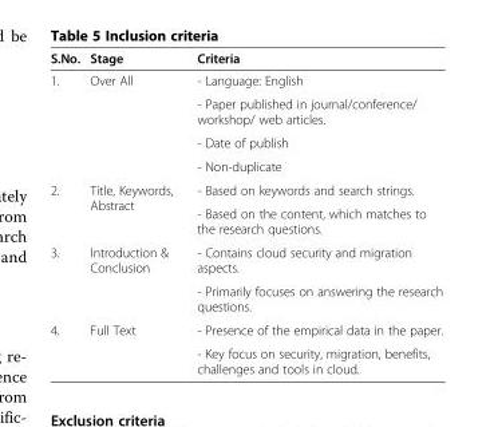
<table><thead><tr><td>S.No.</td><td>Stage</td><td>Criteria</td></tr></thead><tbody><tr><td rowspan="4">1.</td><td rowspan="4">Over All</td><td>- Language: English</td></tr><tr><td>- Paper published in journal/conference/ workshop/ web articles.</td></tr><tr><td>- Date of publish</td></tr><tr><td>- Non-duplicate</td></tr><tr><td rowspan="2">2.</td><td rowspan="2">Title, Keywords, Abstract</td><td>- Based on keywords and search strings.</td></tr><tr><td>- Based on the content, which matches to the research questions.</td></tr><tr><td rowspan="2">3.</td><td rowspan="2">Introduction &amp; Conclusion</td><td>- Contains cloud security and migration aspects.</td></tr><tr><td>- Primarily focuses on answering the research questions.</td></tr><tr><td rowspan="2">4.</td><td rowspan="2">Full Text</td><td>- Presence of the empirical data in the paper.</td></tr><tr><td>- Key focus on security, migration, benefits, challenges and tools in cloud.</td></tr></tbody></table>